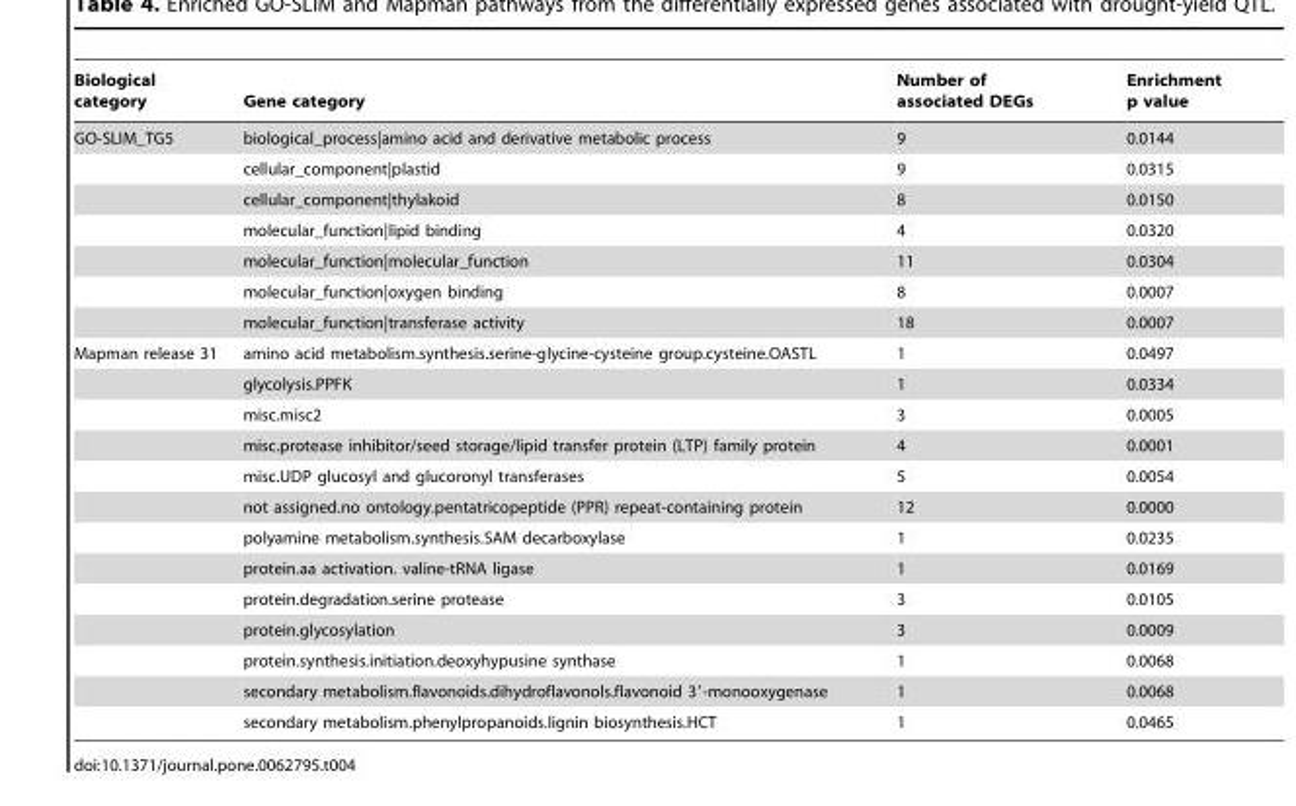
<table><thead><tr><td>Biological category</td><td>Gene category</td><td>Number of associated DEGs</td><td>Enrichment p value</td></tr></thead><tbody><tr><td rowspan="7">GO-SLIM_TG5</td><td>biological_process|amino acid and derivative metabolic process</td><td>9</td><td>0.0144</td></tr><tr><td>cellular_component|plastid</td><td>9</td><td>0.0315</td></tr><tr><td>cellular_component|thylakoid</td><td>8</td><td>0.0150</td></tr><tr><td>molecular_function|lipid binding</td><td>4</td><td>0.0320</td></tr><tr><td>molecular_function|molecular_function</td><td>11</td><td>0.0304</td></tr><tr><td>molecular_function|oxygen binding</td><td>8</td><td>0.0007</td></tr><tr><td>molecular_function|transferase activity</td><td>18</td><td>0.0007</td></tr><tr><td rowspan="13">Mapman release 31</td><td>amino acid metabolism.synthesis.serine-glycine-cysteine group.cysteine.OASTL</td><td>1</td><td>0.0497</td></tr><tr><td>glycolysis.PPFK</td><td>1</td><td>0.0334</td></tr><tr><td>misc.misc2</td><td>3</td><td>0.0005</td></tr><tr><td>misc.protease inhibitor/seed storage/lipid transfer protein (LTP) family protein</td><td>4</td><td>0.0001</td></tr><tr><td>misc.UDP glucosyl and glucoronyl transferases</td><td>5</td><td>0.0054</td></tr><tr><td>not assigned.no ontology.pentatricopeptide (PPR) repeat-containing protein</td><td>12</td><td>0.0000</td></tr><tr><td>polyamine metabolism.synthesis.SAM decarboxylase</td><td>1</td><td>0.0235</td></tr><tr><td>protein.aa activation. valine-tRNA ligase</td><td>1</td><td>0.0169</td></tr><tr><td>protein.degradation.serine protease</td><td>3</td><td>0.0105</td></tr><tr><td>protein.glycosylation</td><td>3</td><td>0.0009</td></tr><tr><td>protein.synthesis.initiation.deoxyhypusine synthase</td><td>1</td><td>0.0068</td></tr><tr><td>secondary metabolism.flavonoids.dihydroflavonols.flavonoid 3′-monooxygenase</td><td>1</td><td>0.0068</td></tr><tr><td>secondary metabolism.phenylpropanoids.lignin biosynthesis.HCT</td><td>1</td><td>0.0465</td></tr></tbody></table>